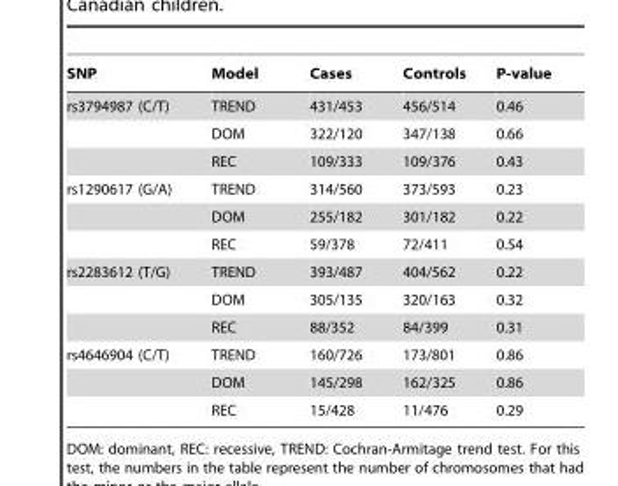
<table><thead><tr><td>SNP</td><td>Model</td><td>Cases</td><td>Controls</td><td>P-value</td></tr></thead><tbody><tr><td rowspan="3">rs3794987 (C/T)</td><td>TREND</td><td>431/453</td><td>456/514</td><td>0.46</td></tr><tr><td>DOM</td><td>322/120</td><td>347/138</td><td>0.66</td></tr><tr><td>REC</td><td>109/333</td><td>109/376</td><td>0.43</td></tr><tr><td rowspan="3">rs1290617 (G/A)</td><td>TREND</td><td>314/560</td><td>373/593</td><td>0.23</td></tr><tr><td>DOM</td><td>255/182</td><td>301/182</td><td>0.22</td></tr><tr><td>REC</td><td>59/378</td><td>72/411</td><td>0.54</td></tr><tr><td rowspan="3">rs2283612 (T/G)</td><td>TREND</td><td>393/487</td><td>404/562</td><td>0.22</td></tr><tr><td>DOM</td><td>305/135</td><td>320/163</td><td>0.32</td></tr><tr><td>REC</td><td>88/352</td><td>84/399</td><td>0.31</td></tr><tr><td rowspan="3">rs4646904 (C/T)</td><td>TREND</td><td>160/726</td><td>173/801</td><td>0.86</td></tr><tr><td>DOM</td><td>145/298</td><td>162/325</td><td>0.86</td></tr><tr><td>REC</td><td>15/428</td><td>11/476</td><td>0.29</td></tr></tbody></table>